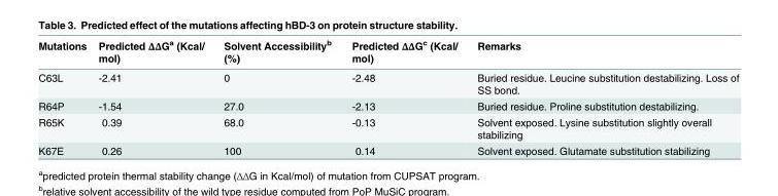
<table><thead><tr><td>Mutations</td><td>Predicted ΔΔGa (Kcal/ mol)</td><td>Solvent Accessibility<sup>b</sup> (%)</td><td>Predicted ΔΔGc (Kcal/ mol)</td><td>Remarks</td></tr></thead><tbody><tr><td>C63L</td><td>-2.41</td><td>0</td><td>-2.48</td><td>Buried residue. Leucine substitution destabilizing. Loss of SS bond.</td></tr><tr><td>R64P</td><td>-1.54</td><td>27.0</td><td>-2.13</td><td>Buried residue. Proline substitution destabilizing.</td></tr><tr><td>R65K</td><td>0.39</td><td>68.0</td><td>-0.13</td><td>Solvent exposed. Lysine substitution slightly overall stabilizing</td></tr><tr><td>K67E</td><td>0.26</td><td>100</td><td>0.14</td><td>Solvent exposed. Glutamate substitution stabilizing</td></tr></tbody></table>